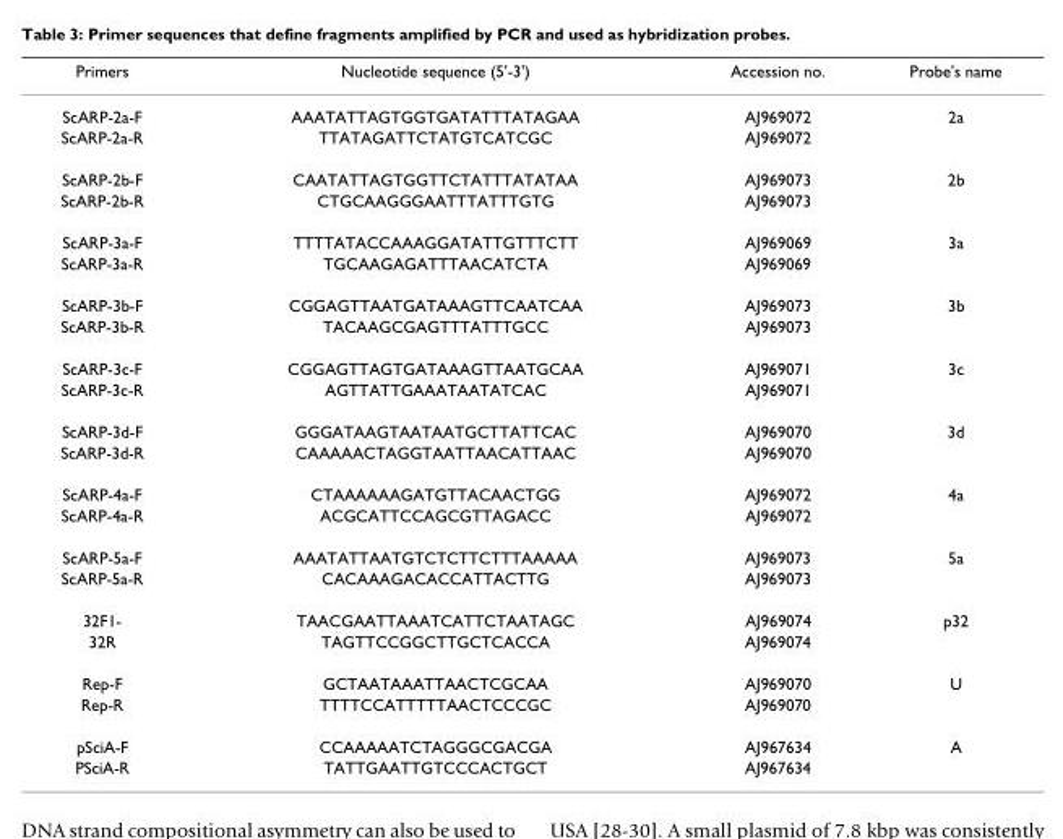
<table><thead><tr><td>Primers</td><td>Nucleotide sequence (5&#x27;-3&#x27;)</td><td>Accession no.</td><td>Probe&#x27;s name</td></tr></thead><tbody><tr><td>ScARP-2a-F</td><td>AAATATTAGTGGTGATATTTATAGAA</td><td>AJ969072</td><td>2a</td></tr><tr><td>ScARP-2a-R</td><td>TTATAGATTCTATGTCATCGC</td><td>AJ969072</td><td></td></tr><tr><td>ScARP-2b-F</td><td>CAATATTAGTGGTTCTATTTATATAA</td><td>AJ969073</td><td>2b</td></tr><tr><td>ScARP-2b-R</td><td>CTGCAAGGGAATTTATTTGTG</td><td>AJ969073</td><td></td></tr><tr><td>ScARP-3a-F</td><td>TTTTATACCAAAGGATATTGTTTCTT</td><td>AJ969069</td><td>3a</td></tr><tr><td>ScARP-3a-R</td><td>TGCAAGAGATTTAACATCTA</td><td>AJ969069</td><td></td></tr><tr><td>ScARP-3b-F</td><td>CGGAGTTAATGATAAAGTTCAATCAA</td><td>AJ969073</td><td>3b</td></tr><tr><td>ScARP-3b-R</td><td>TACAAGCGAGTTTATTTGCC</td><td>AJ969073</td><td></td></tr><tr><td>ScARP-3c-F</td><td>CGGAGTTAGTGATAAAGTTAATGCAA</td><td>AJ969071</td><td>3c</td></tr><tr><td>ScARP-3c-R</td><td>AGTTATTGAAATAATATCAC</td><td>AJ969071</td><td></td></tr><tr><td>ScARP-3d-F</td><td>GGGATAAGTAATAATGCTTATTCAC</td><td>AJ969070</td><td>3d</td></tr><tr><td>ScARP-3d-R</td><td>CAAAAACTAGGTAATTAACATTAAC</td><td>AJ969070</td><td></td></tr><tr><td>ScARP-4a-F</td><td>CTAAAAAAGATGTTACAACTGG</td><td>AJ969072</td><td>4a</td></tr><tr><td>ScARP-4a-R</td><td>ACGCATTCCAGCGTTAGACC</td><td>AJ969072</td><td></td></tr><tr><td>ScARP-5a-F</td><td>AAATATTAATGTCTCTTCTTTAAAAA</td><td>AJ969073</td><td>5a</td></tr><tr><td>ScARP-5a-R</td><td>CACAAAGACACCATTACTTG</td><td>AJ969073</td><td></td></tr><tr><td>32F1-</td><td>TAACGAATTAAATCATTCTAATAGC</td><td>AJ969074</td><td>p32</td></tr><tr><td>32R</td><td>TAGTTCCGGCTTGCTCACCA</td><td>AJ969074</td><td></td></tr><tr><td>Rep-F</td><td>GCTAATAAATTAACTCGCAA</td><td>AJ969070</td><td>U</td></tr><tr><td>Rep-R</td><td>TTTTCCATTTTTAACTCCCGC</td><td>AJ969070</td><td></td></tr><tr><td>pSciA-F</td><td>CCAAAAATCTAGGGCGACGA</td><td>AJ967634</td><td>A</td></tr><tr><td>PSciA-R</td><td>TATTGAATTGTCCCACTGCT</td><td>AJ967634</td><td></td></tr></tbody></table>